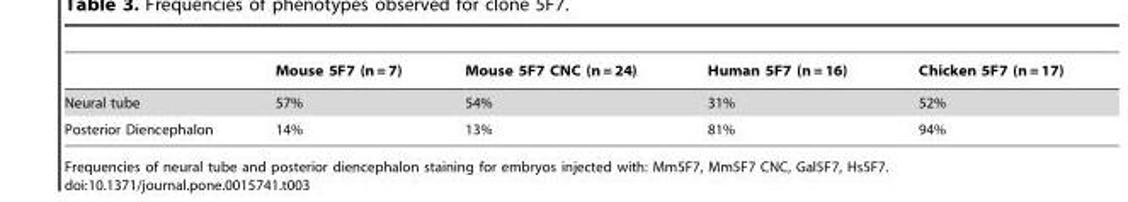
<table><thead><tr><td></td><td>Mouse 5F7 (n = 7)</td><td>Mouse 5F7 CNC (n = 24)</td><td>Human 5F7 (n = 16)</td><td>Chicken 5F7 (n = 17)</td></tr></thead><tbody><tr><td>Neural tube</td><td>57%</td><td>54%</td><td>31%</td><td>52%</td></tr><tr><td>Posterior Diencephalon</td><td>14%</td><td>13%</td><td>81%</td><td>94%</td></tr></tbody></table>